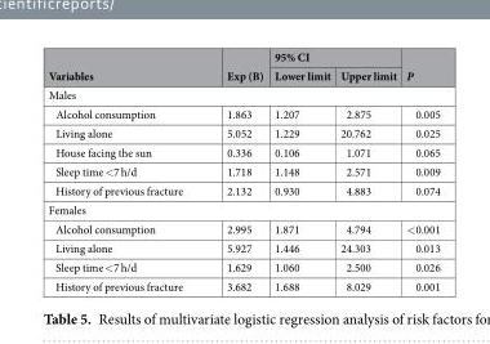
<table><thead><tr><td rowspan="2">Variables</td><td rowspan="2">Exp (B)</td><td colspan="2">95% CI</td><td rowspan="2">P</td></tr><tr><td>Lower limit</td><td>Upper limit</td></tr></thead><tbody><tr><td colspan="5">Males</td></tr><tr><td>Alcohol consumption</td><td>1.863</td><td>1.207</td><td>2.875</td><td>0.005</td></tr><tr><td>Living alone</td><td>5.052</td><td>1.229</td><td>20.762</td><td>0.025</td></tr><tr><td>House facing the sun</td><td>0.336</td><td>0.106</td><td>1.071</td><td>0.065</td></tr><tr><td>Sleep time &lt;7 h/d</td><td>1.718</td><td>1.148</td><td>2.571</td><td>0.009</td></tr><tr><td>History of previous fracture</td><td>2.132</td><td>0.930</td><td>4.883</td><td>0.074</td></tr><tr><td colspan="5">Females</td></tr><tr><td>Alcohol consumption</td><td>2.995</td><td>1.871</td><td>4.794</td><td>&lt;0.001</td></tr><tr><td>Living alone</td><td>5.927</td><td>1.446</td><td>24.303</td><td>0.013</td></tr><tr><td>Sleep time &lt;7 h/d</td><td>1.629</td><td>1.060</td><td>2.500</td><td>0.026</td></tr><tr><td>History of previous fracture</td><td>3.682</td><td>1.688</td><td>8.029</td><td>0.001</td></tr></tbody></table>